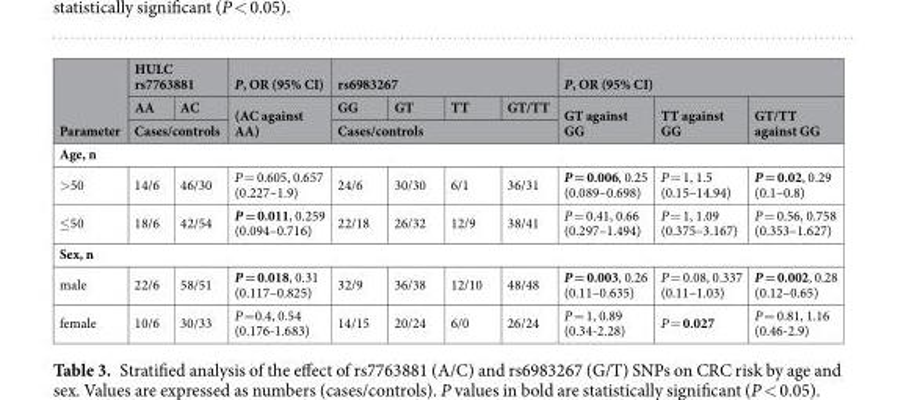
<table><thead><tr><td rowspan="3">Parameter</td><td colspan="2">HULC rs7763881</td><td rowspan="3">P, OR (95% CI) (AC against AA)</td><td colspan="4">rs6983267</td><td colspan="3">P, OR (95% CI)</td></tr><tr><td>AA</td><td>AC</td><td>GG</td><td>GT</td><td>TT</td><td>GT/TT</td><td rowspan="2">GT against GG</td><td rowspan="2">TT against GG</td><td rowspan="2">GT/TT against GG</td></tr><tr><td colspan="2">Cases/controls</td><td colspan="4">Cases/controls</td></tr></thead><tbody><tr><td colspan="11">Age, n</td></tr><tr><td>&gt;50</td><td>14/6</td><td>46/30</td><td>P = 0.605, 0.657 (0.227–1.9)</td><td>24/6</td><td>30/30</td><td>6/1</td><td>36/31</td><td>P = 0.006, 0.25 (0.089–0.698)</td><td>P = 1, 1.5 (0.15–14.94)</td><td>P = 0.02, 0.29 (0.1–0.8)</td></tr><tr><td>≤50</td><td>18/6</td><td>42/54</td><td>P = 0.011, 0.259 (0.094–0.716)</td><td>22/18</td><td>26/32</td><td>12/9</td><td>38/41</td><td>P = 0.41, 0.66 (0.297–1.494)</td><td>P = 1, 1.09 (0.375–3.167)</td><td>P = 0.56, 0.758 (0.353–1.627)</td></tr><tr><td colspan="11">Sex, n</td></tr><tr><td>male</td><td>22/6</td><td>58/51</td><td>P = 0.018, 0.31 (0.117–0.825)</td><td>32/9</td><td>36/38</td><td>12/10</td><td>48/48</td><td>P = 0.003, 0.26 (0.11–0.635)</td><td>P = 0.08, 0.337 (0.11–1.03)</td><td>P = 0.002, 0.28 (0.12–0.65)</td></tr><tr><td>female</td><td>10/6</td><td>30/33</td><td>P =0.4, 0.54 (0.176-1.683)</td><td>14/15</td><td>20/24</td><td>6/0</td><td>26/24</td><td>P = 1, 0.89 (0.34-2.28)</td><td>P = 0.027</td><td>P = 0.81, 1.16 (0.46-2.9)</td></tr></tbody></table>